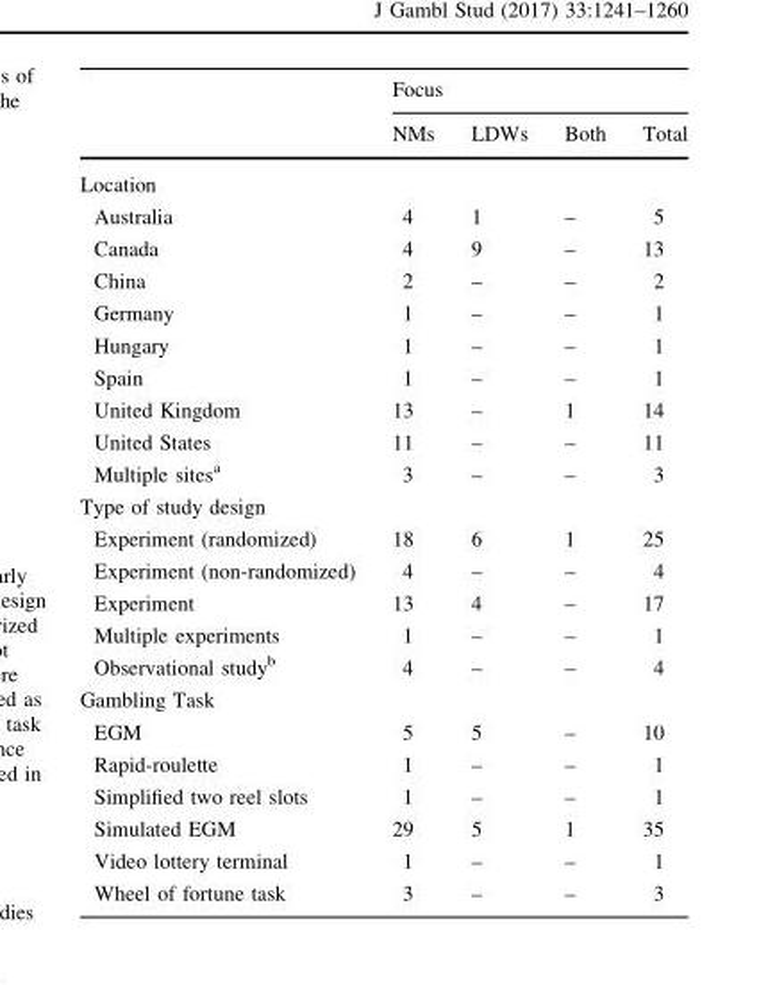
<table><thead><tr><td rowspan="2"></td><td colspan="4">Focus</td></tr><tr><td>NMs</td><td>LDWs</td><td>Both</td><td>Total</td></tr></thead><tbody><tr><td colspan="5">Location</td></tr><tr><td>Australia</td><td>4</td><td>1</td><td>–</td><td>5</td></tr><tr><td>Canada</td><td>4</td><td>9</td><td>–</td><td>13</td></tr><tr><td>China</td><td>2</td><td>–</td><td>–</td><td>2</td></tr><tr><td>Germany</td><td>1</td><td>–</td><td>–</td><td>1</td></tr><tr><td>Hungary</td><td>1</td><td>–</td><td>–</td><td>1</td></tr><tr><td>Spain</td><td>1</td><td>–</td><td>–</td><td>1</td></tr><tr><td>United Kingdom</td><td>13</td><td>–</td><td>1</td><td>14</td></tr><tr><td>United States</td><td>11</td><td>–</td><td>–</td><td>11</td></tr><tr><td>Multiple sites<sup>a</sup></td><td>3</td><td>–</td><td>–</td><td>3</td></tr><tr><td colspan="5">Type of study design</td></tr><tr><td>Experiment (randomized)</td><td>18</td><td>6</td><td>1</td><td>25</td></tr><tr><td>Experiment (non-randomized)</td><td>4</td><td>–</td><td>–</td><td>4</td></tr><tr><td>Experiment</td><td>13</td><td>4</td><td>–</td><td>17</td></tr><tr><td>Multiple experiments</td><td>1</td><td>–</td><td>–</td><td>1</td></tr><tr><td>Observational study<sup>b</sup></td><td>4</td><td>–</td><td>–</td><td>4</td></tr><tr><td colspan="5">Gambling Task</td></tr><tr><td>EGM</td><td>5</td><td>5</td><td>–</td><td>10</td></tr><tr><td>Rapid-roulette</td><td>1</td><td>–</td><td>–</td><td>1</td></tr><tr><td>Simplified two reel slots</td><td>1</td><td>–</td><td>–</td><td>1</td></tr><tr><td>Simulated EGM</td><td>29</td><td>5</td><td>1</td><td>35</td></tr><tr><td>Video lottery terminal</td><td>1</td><td>–</td><td>–</td><td>1</td></tr><tr><td>Wheel of fortune task</td><td>3</td><td>–</td><td>–</td><td>3</td></tr></tbody></table>